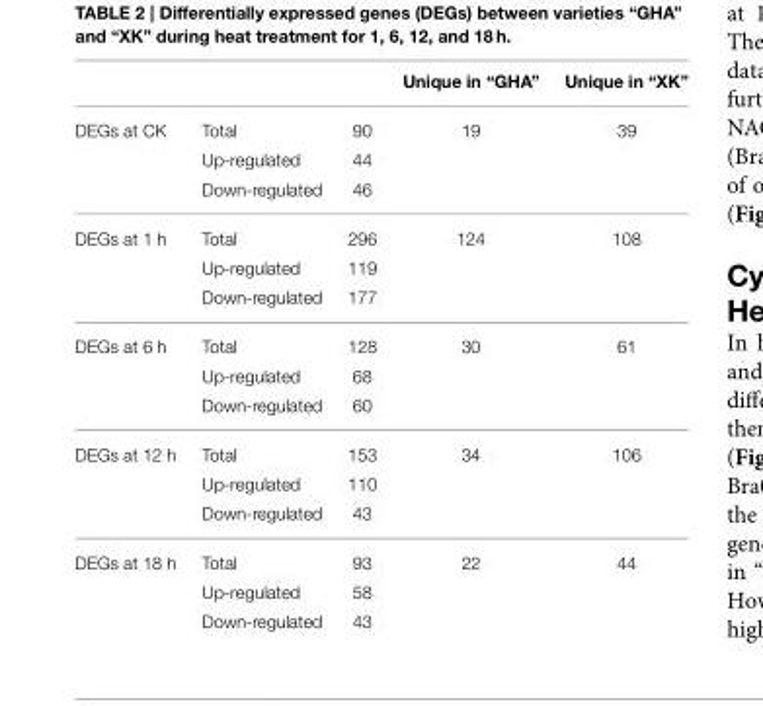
<table><thead><tr><td></td><td></td><td></td><td>Unique in “GHA”</td><td>Unique in “XK”</td></tr></thead><tbody><tr><td rowspan="3">DEGs at CK</td><td>Total</td><td>90</td><td>19</td><td>39</td></tr><tr><td>Up-regulated</td><td>44</td><td></td><td></td></tr><tr><td>Down-regulated</td><td>46</td><td></td><td></td></tr><tr><td rowspan="3">DEGs at 1 h</td><td>Total</td><td>296</td><td>124</td><td>108</td></tr><tr><td>Up-regulated</td><td>119</td><td></td><td></td></tr><tr><td>Down-regulated</td><td>177</td><td></td><td></td></tr><tr><td rowspan="3">DEGs at 6 h</td><td>Total</td><td>128</td><td>30</td><td>61</td></tr><tr><td>Up-regulated</td><td>68</td><td></td><td></td></tr><tr><td>Down-regulated</td><td>60</td><td></td><td></td></tr><tr><td rowspan="3">DEGs at 12 h</td><td>Total</td><td>153</td><td>34</td><td>106</td></tr><tr><td>Up-regulated</td><td>110</td><td></td><td></td></tr><tr><td>Down-regulated</td><td>43</td><td></td><td></td></tr><tr><td rowspan="3">DEGs at 18 h</td><td>Total</td><td>93</td><td>22</td><td>44</td></tr><tr><td>Up-regulated</td><td>58</td><td></td><td></td></tr><tr><td>Down-regulated</td><td>43</td><td></td><td></td></tr></tbody></table>